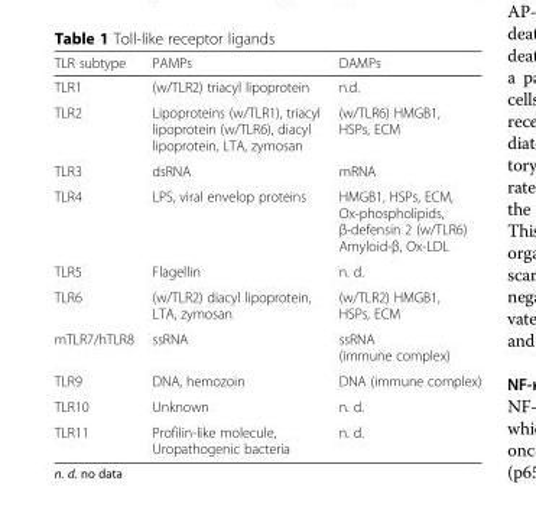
<table><thead><tr><td>TLR subtype</td><td>PAMPs</td><td>DAMPs</td></tr></thead><tbody><tr><td>TLR1</td><td>(w/TLR2) triacyl lipoprotein</td><td>n.d.</td></tr><tr><td>TLR2</td><td>Lipoproteins (w/TLR1), triacyl lipoprotein (w/TLR6), diacyl lipoprotein, LTA, zymosan</td><td>(w/TLR6) HMGB1, HSPs, ECM</td></tr><tr><td>TLR3</td><td>dsRNA</td><td>mRNA</td></tr><tr><td>TLR4</td><td>LPS, viral envelop proteins</td><td>HMGB1, HSPs, ECM, Ox-phospholipids, β-defensin 2 (w/TLR6) Amyloid-β, Ox-LDL</td></tr><tr><td>TLR5</td><td>Flagellin</td><td>n. d.</td></tr><tr><td>TLR6</td><td>(w/TLR2) diacyl lipoprotein, LTA, zymosan</td><td>(w/TLR2) HMGB1, HSPs, ECM</td></tr><tr><td>mTLR7/hTLR8</td><td>ssRNA</td><td>ssRNA (immune complex)</td></tr><tr><td>TLR9</td><td>DNA, hemozoin</td><td>DNA (immune complex)</td></tr><tr><td>TLR10</td><td>Unknown</td><td>n. d.</td></tr><tr><td>TLR11</td><td>Profilin-like molecule, Uropathogenic bacteria</td><td>n. d.</td></tr></tbody></table>